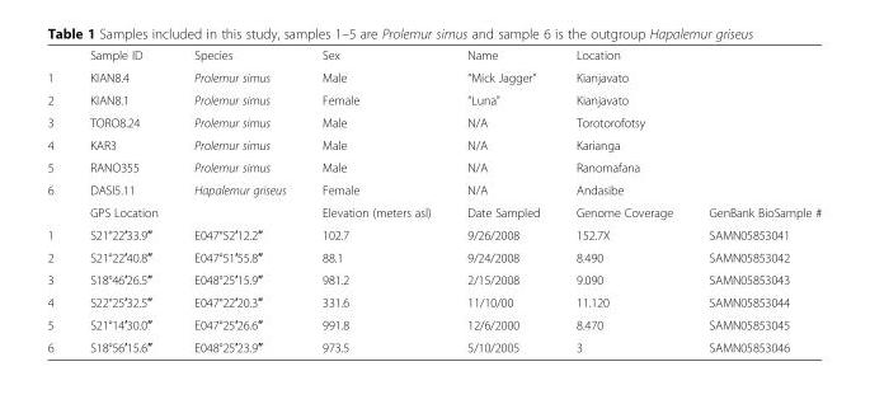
<table><thead><tr><td></td><td>Sample ID</td><td>Species</td><td>Sex</td><td>Name</td><td>Location</td><td></td></tr></thead><tbody><tr><td>1</td><td>KIAN8.4</td><td>Prolemur simus</td><td>Male</td><td>“Mick Jagger”</td><td>Kianjavato</td><td></td></tr><tr><td>2</td><td>KIAN8.1</td><td>Prolemur simus</td><td>Female</td><td>“Luna”</td><td>Kianjavato</td><td></td></tr><tr><td>3</td><td>TORO8.24</td><td>Prolemur simus</td><td>Male</td><td>N/A</td><td>Torotorofotsy</td><td></td></tr><tr><td>4</td><td>KAR3</td><td>Prolemur simus</td><td>Male</td><td>N/A</td><td>Karianga</td><td></td></tr><tr><td>5</td><td>RANO355</td><td>Prolemur simus</td><td>Male</td><td>N/A</td><td>Ranomafana</td><td></td></tr><tr><td rowspan="2">6</td><td>DASI5.11</td><td>Hapalemur griseus</td><td>Female</td><td>N/A</td><td>Andasibe</td><td></td></tr><tr><td>GPS Location</td><td></td><td>Elevation (meters asl)</td><td>Date Sampled</td><td>Genome Coverage</td><td>GenBank BioSample #</td></tr><tr><td>1</td><td>S21°22′33.9′′</td><td>E047°52′12.2′′</td><td>102.7</td><td>9/26/2008</td><td>152.7X</td><td>SAMN05853041</td></tr><tr><td>2</td><td>S21°22′40.8′′</td><td>E047°51′55.8′′</td><td>88.1</td><td>9/24/2008</td><td>8.490</td><td>SAMN05853042</td></tr><tr><td>3</td><td>S18°46′26.5′′</td><td>E048°25′15.9′′</td><td>981.2</td><td>2/15/2008</td><td>9.090</td><td>SAMN05853043</td></tr><tr><td>4</td><td>S22°25′32.5′′</td><td>E047°22′20.3′′</td><td>331.6</td><td>11/10/00</td><td>11.120</td><td>SAMN05853044</td></tr><tr><td>5</td><td>S21°14′30.0′′</td><td>E047°25′26.6′′</td><td>991.8</td><td>12/6/2000</td><td>8.470</td><td>SAMN05853045</td></tr><tr><td>6</td><td>S18°56′15.6′′</td><td>E048°25′23.9′′</td><td>973.5</td><td>5/10/2005</td><td>3</td><td>SAMN05853046</td></tr></tbody></table>